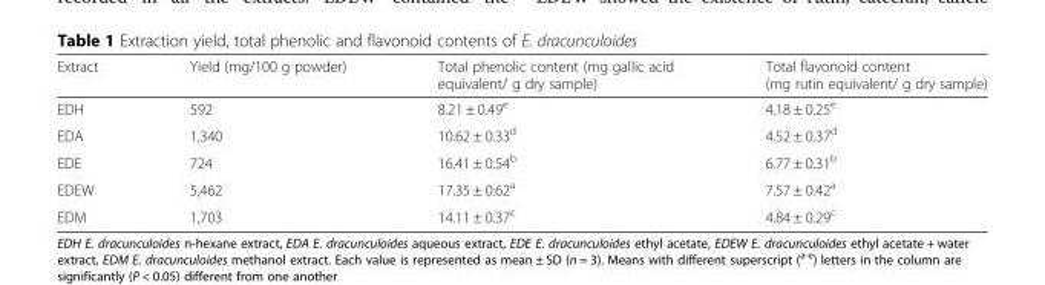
<table><thead><tr><td>Extract</td><td>Yield (mg/100 g powder)</td><td>Total phenolic content (mg gallic acid equivalent/ g dry sample)</td><td>Total flavonoid content (mg rutin equivalent/ g dry sample)</td></tr></thead><tbody><tr><td>EDH</td><td>592</td><td>8.21 ± 0.49<sup>e</sup></td><td>4.18 ± 0.25<sup>e</sup></td></tr><tr><td>EDA</td><td>1,340</td><td>10.62 ± 0.33<sup>d</sup></td><td>4.52 ± 0.37<sup>d</sup></td></tr><tr><td>EDE</td><td>724</td><td>16.41 ± 0.54<sup>b</sup></td><td>6.77 ± 0.31<sup>b</sup></td></tr><tr><td>EDEW</td><td>5,462</td><td>17.35 ± 0.62<sup>a</sup></td><td>7.57 ± 0.42<sup>a</sup></td></tr><tr><td>EDM</td><td>1,703</td><td>14.11 ± 0.37<sup>c</sup></td><td>4.84 ± 0.29<sup>c</sup></td></tr></tbody></table>